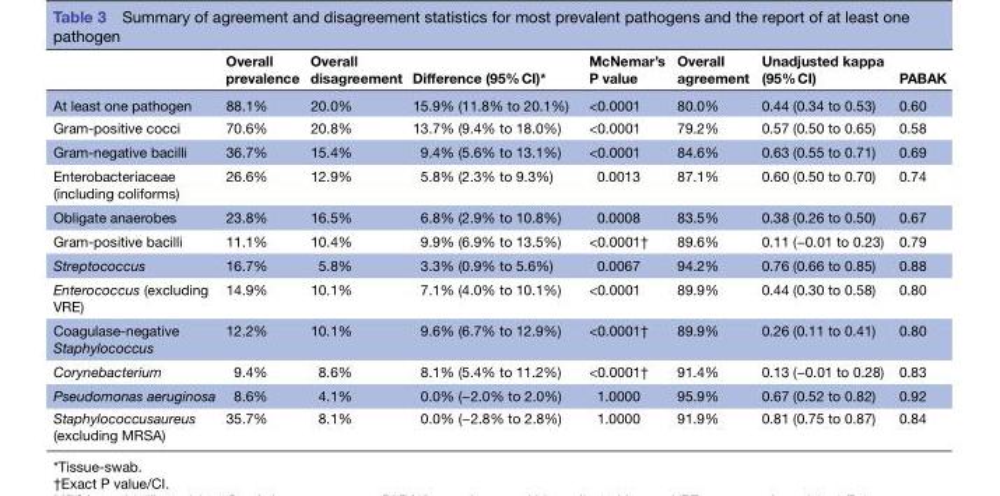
<table><thead><tr><td></td><td>Overall prevalence</td><td>Overall disagreement</td><td>Difference (95% CI)*</td><td>McNemar’s P value</td><td>Overall agreement</td><td>Unadjusted kappa (95% CI)</td><td>PABAK</td></tr></thead><tbody><tr><td>At least one pathogen</td><td>88.1%</td><td>20.0%</td><td>15.9% (11.8% to 20.1%)</td><td>&lt;0.0001</td><td>80.0%</td><td>0.44 (0.34 to 0.53)</td><td>0.60</td></tr><tr><td>Gram-positive cocci</td><td>70.6%</td><td>20.8%</td><td>13.7% (9.4% to 18.0%)</td><td>&lt;0.0001</td><td>79.2%</td><td>0.57 (0.50 to 0.65)</td><td>0.58</td></tr><tr><td>Gram-negative bacilli</td><td>36.7%</td><td>15.4%</td><td>9.4% (5.6% to 13.1%)</td><td>&lt;0.0001</td><td>84.6%</td><td>0.63 (0.55 to 0.71)</td><td>0.69</td></tr><tr><td>Enterobacteriaceae (including coliforms)</td><td>26.6%</td><td>12.9%</td><td>5.8% (2.3% to 9.3%)</td><td>0.0013</td><td>87.1%</td><td>0.60 (0.50 to 0.70)</td><td>0.74</td></tr><tr><td>Obligate anaerobes</td><td>23.8%</td><td>16.5%</td><td>6.8% (2.9% to 10.8%)</td><td>0.0008</td><td>83.5%</td><td>0.38 (0.26 to 0.50)</td><td>0.67</td></tr><tr><td>Gram-positive bacilli</td><td>11.1%</td><td>10.4%</td><td>9.9% (6.9% to 13.5%)</td><td>&lt;0.0001†</td><td>89.6%</td><td>0.11 (−0.01 to 0.23)</td><td>0.79</td></tr><tr><td>Streptococcus</td><td>16.7%</td><td>5.8%</td><td>3.3% (0.9% to 5.6%)</td><td>0.0067</td><td>94.2%</td><td>0.76 (0.66 to 0.85)</td><td>0.88</td></tr><tr><td>Enterococcus (excluding VRE)</td><td>14.9%</td><td>10.1%</td><td>7.1% (4.0% to 10.1%)</td><td>&lt;0.0001</td><td>89.9%</td><td>0.44 (0.30 to 0.58)</td><td>0.80</td></tr><tr><td>Coagulase-negative Staphylococcus</td><td>12.2%</td><td>10.1%</td><td>9.6% (6.7% to 12.9%)</td><td>&lt;0.0001†</td><td>89.9%</td><td>0.26 (0.11 to 0.41)</td><td>0.80</td></tr><tr><td>Corynebacterium</td><td>9.4%</td><td>8.6%</td><td>8.1% (5.4% to 11.2%)</td><td>&lt;0.0001†</td><td>91.4%</td><td>0.13 (−0.01 to 0.28)</td><td>0.83</td></tr><tr><td>Pseudomonas aeruginosa</td><td>8.6%</td><td>4.1%</td><td>0.0% (−2.0% to 2.0%)</td><td>1.0000</td><td>95.9%</td><td>0.67 (0.52 to 0.82)</td><td>0.92</td></tr><tr><td>Staphylococcusaureus (excluding MRSA)</td><td>35.7%</td><td>8.1%</td><td>0.0% (−2.8% to 2.8%)</td><td>1.0000</td><td>91.9%</td><td>0.81 (0.75 to 0.87)</td><td>0.84</td></tr></tbody></table>